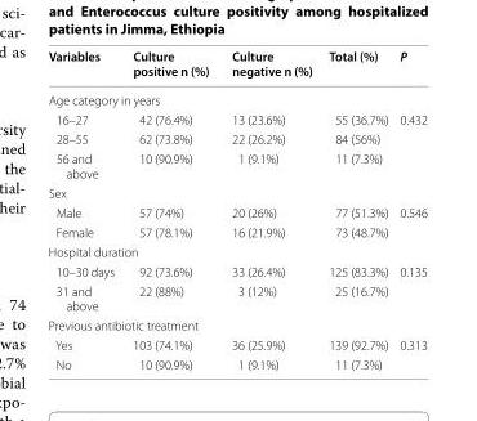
<table><thead><tr><td>Variables</td><td>Culture positive n (%)</td><td>Culture negative n (%)</td><td>Total (%)</td><td>P</td></tr></thead><tbody><tr><td colspan="5">Age category in years</td></tr><tr><td>16–27</td><td>42 (76.4%)</td><td>13 (23.6%)</td><td>55 (36.7%)</td><td rowspan="3">0.432</td></tr><tr><td>28–55</td><td>62 (73.8%)</td><td>22 (26.2%)</td><td>84 (56%)</td></tr><tr><td>56 and above</td><td>10 (90.9%)</td><td>1 (9.1%)</td><td>11 (7.3%)</td></tr><tr><td colspan="5">Sex</td></tr><tr><td>Male</td><td>57 (74%)</td><td>20 (26%)</td><td>77 (51.3%)</td><td rowspan="2">0.546</td></tr><tr><td>Female</td><td>57 (78.1%)</td><td>16 (21.9%)</td><td>73 (48.7%)</td></tr><tr><td colspan="5">Hospital duration</td></tr><tr><td>10–30 days</td><td>92 (73.6%)</td><td>33 (26.4%)</td><td>125 (83.3%)</td><td rowspan="2">0.135</td></tr><tr><td>31 and above</td><td>22 (88%)</td><td>3 (12%)</td><td>25 (16.7%)</td></tr><tr><td colspan="5">Previous antibiotic treatment</td></tr><tr><td>Yes</td><td>103 (74.1%)</td><td>36 (25.9%)</td><td>139 (92.7%)</td><td rowspan="2">0.313</td></tr><tr><td>No</td><td>10 (90.9%)</td><td>1 (9.1%)</td><td>11 (7.3%)</td></tr></tbody></table>